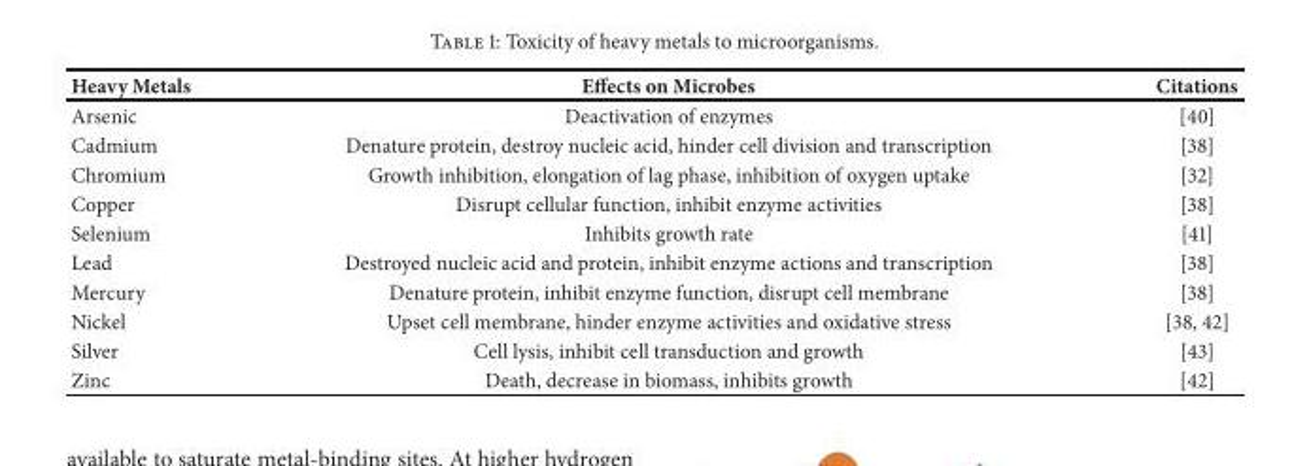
<table><thead><tr><td>Heavy Metals</td><td>Effects on Microbes</td><td>Citations</td></tr></thead><tbody><tr><td>Arsenic</td><td>Deactivation of enzymes</td><td>[40]</td></tr><tr><td>Cadmium</td><td>Denature protein, destroy nucleic acid, hinder cell division and transcription</td><td>[38]</td></tr><tr><td>Chromium</td><td>Growth inhibition, elongation of lag phase, inhibition of oxygen uptake</td><td>[32]</td></tr><tr><td>Copper</td><td>Disrupt cellular function, inhibit enzyme activities</td><td>[38]</td></tr><tr><td>Selenium</td><td>Inhibits growth rate</td><td>[41]</td></tr><tr><td>Lead</td><td>Destroyed nucleic acid and protein, inhibit enzyme actions and transcription</td><td>[38]</td></tr><tr><td>Mercury</td><td>Denature protein, inhibit enzyme function, disrupt cell membrane</td><td>[38]</td></tr><tr><td>Nickel</td><td>Upset cell membrane, hinder enzyme activities and oxidative stress</td><td>[38, 42]</td></tr><tr><td>Silver</td><td>Cell lysis, inhibit cell transduction and growth</td><td>[43]</td></tr><tr><td>Zinc</td><td>Death, decrease in biomass, inhibits growth</td><td>[42]</td></tr></tbody></table>